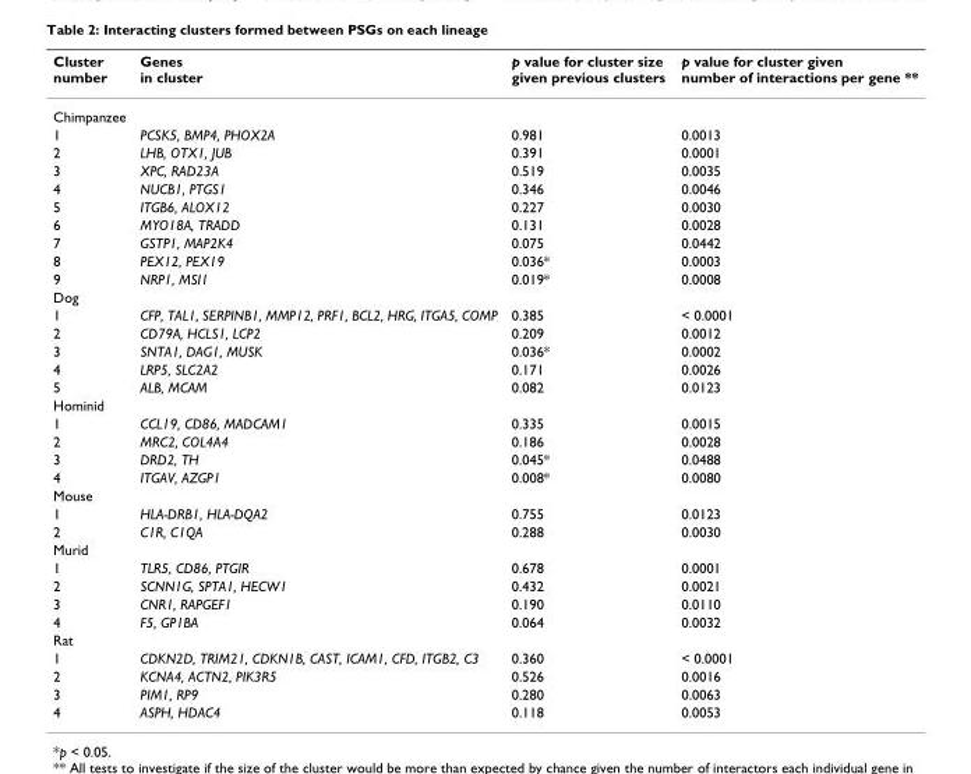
<table><thead><tr><td>Cluster number</td><td>Genes in cluster</td><td>p value for cluster size given previous clusters</td><td>p value for cluster given number of interactions per gene **</td></tr></thead><tbody><tr><td colspan="4">Chimpanzee</td></tr><tr><td>1</td><td>PCSK5, BMP4, PHOX2A</td><td>0.981</td><td>0.0013</td></tr><tr><td>2</td><td>LHB, OTX1, JUB</td><td>0.391</td><td>0.0001</td></tr><tr><td>3</td><td>XPC, RAD23A</td><td>0.519</td><td>0.0035</td></tr><tr><td>4</td><td>NUCB1, PTGS1</td><td>0.346</td><td>0.0046</td></tr><tr><td>5</td><td>ITGB6, ALOX12</td><td>0.227</td><td>0.0030</td></tr><tr><td>6</td><td>MYO18A, TRADD</td><td>0.131</td><td>0.0028</td></tr><tr><td>7</td><td>GSTP1, MAP2K4</td><td>0.075</td><td>0.0442</td></tr><tr><td>8</td><td>PEX12, PEX19</td><td>0.036*</td><td>0.0003</td></tr><tr><td>9</td><td>NRP1, MSI1</td><td>0.019*</td><td>0.0008</td></tr><tr><td colspan="4">Dog</td></tr><tr><td>1</td><td>CFP, TAL1, SERPINB1, MMP12, PRF1, BCL2, HRG, ITGA5, COMP</td><td>0.385</td><td>&lt; 0.0001</td></tr><tr><td>2</td><td>CD79A, HCLS1, LCP2</td><td>0.209</td><td>0.0012</td></tr><tr><td>3</td><td>SNTA1, DAG1, MUSK</td><td>0.036*</td><td>0.0002</td></tr><tr><td>4</td><td>LRP5, SLC2A2</td><td>0.171</td><td>0.0026</td></tr><tr><td>5</td><td>ALB, MCAM</td><td>0.082</td><td>0.0123</td></tr><tr><td colspan="4">Hominid</td></tr><tr><td>1</td><td>CCL19, CD86, MADCAM1</td><td>0.335</td><td>0.0015</td></tr><tr><td>2</td><td>MRC2, COL4A4</td><td>0.186</td><td>0.0028</td></tr><tr><td>3</td><td>DRD2, TH</td><td>0.045*</td><td>0.0488</td></tr><tr><td>4</td><td>ITGAV, AZGP1</td><td>0.008*</td><td>0.0080</td></tr><tr><td colspan="4">Mouse</td></tr><tr><td>1</td><td>HLA-DRB1, HLA-DQA2</td><td>0.755</td><td>0.0123</td></tr><tr><td>2</td><td>C1R, C1QA</td><td>0.288</td><td>0.0030</td></tr><tr><td colspan="4">Murid</td></tr><tr><td>1</td><td>TLR5, CD86, PTGIR</td><td>0.678</td><td>0.0001</td></tr><tr><td>2</td><td>SCNN1G, SPTA1, HECW1</td><td>0.432</td><td>0.0021</td></tr><tr><td>3</td><td>CNR1, RAPGEF1</td><td>0.190</td><td>0.0110</td></tr><tr><td>4</td><td>F5, GP1BA</td><td>0.064</td><td>0.0032</td></tr><tr><td colspan="4">Rat</td></tr><tr><td>1</td><td>CDKN2D, TRIM21, CDKN1B, CAST, ICAM1, CFD, ITGB2, C3</td><td>0.360</td><td>&lt; 0.0001</td></tr><tr><td>2</td><td>KCNA4, ACTN2, PIK3R5</td><td>0.526</td><td>0.0016</td></tr><tr><td>3</td><td>PIM1, RP9</td><td>0.280</td><td>0.0063</td></tr><tr><td>4</td><td>ASPH, HDAC4</td><td>0.118</td><td>0.0053</td></tr></tbody></table>